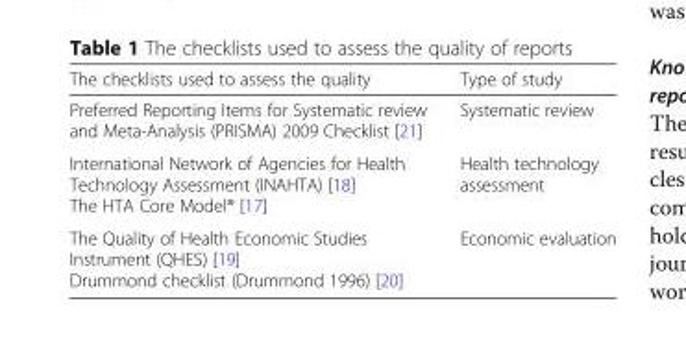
<table><thead><tr><td>The checklists used to assess the quality</td><td>Type of study</td></tr></thead><tbody><tr><td>Preferred Reporting Items for Systematic review and Meta-Analysis (PRISMA) 2009 Checklist [21]</td><td>Systematic review</td></tr><tr><td>International Network of Agencies for Health Technology Assessment (INAHTA) [18] The HTA Core Model® [17]</td><td>Health technology assessment</td></tr><tr><td>The Quality of Health Economic Studies Instrument (QHES) [19] Drummond checklist (Drummond 1996) [20]</td><td>Economic evaluation</td></tr></tbody></table>